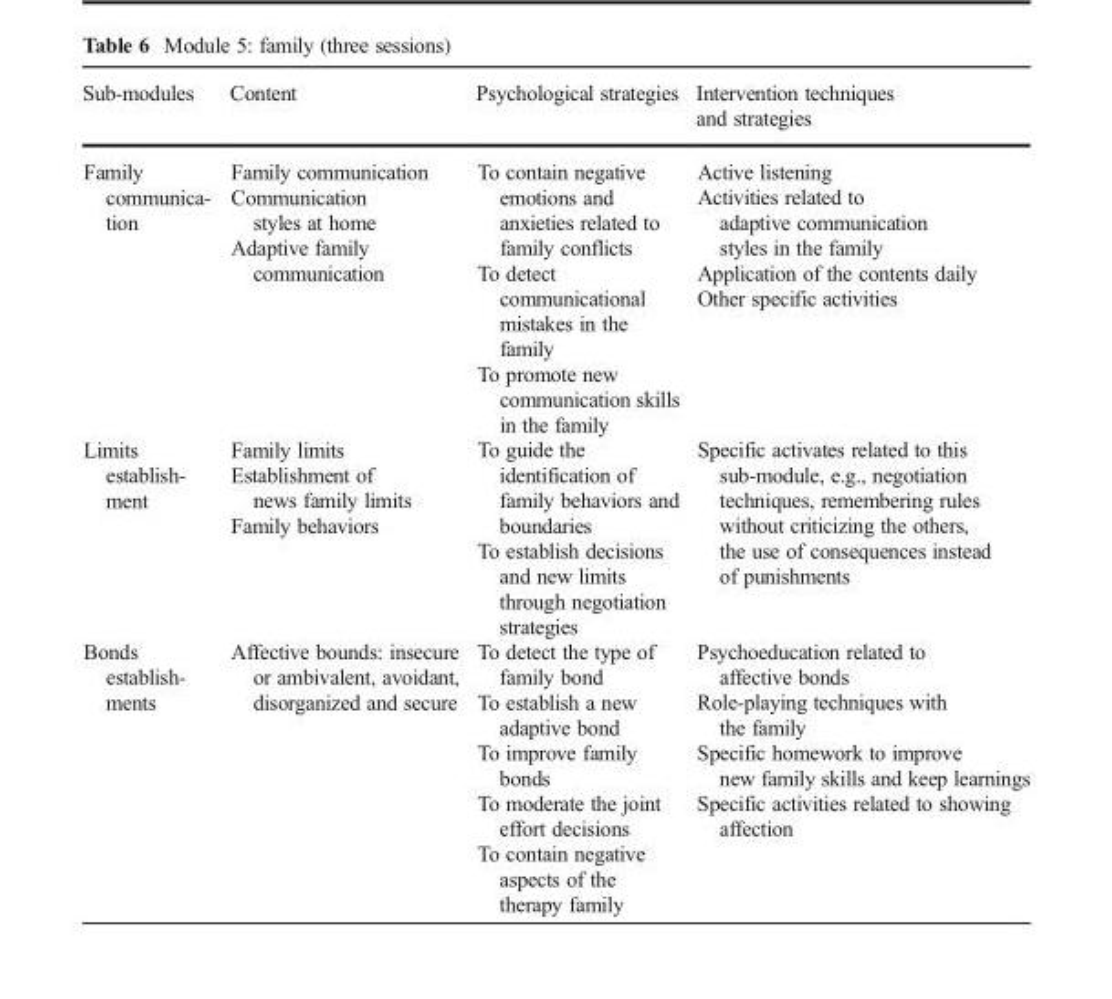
<table><thead><tr><td>Sub-modules</td><td>Content</td><td>Psychological strategies</td><td>Intervention techniques and strategies</td></tr></thead><tbody><tr><td>Family communica- tion</td><td>Family communication Communication styles at home Adaptive family communication</td><td>To contain negative emotions and anxieties related to family conflicts To detect communicational mistakes in the family To promote new communication skills in the family</td><td>Active listening Activities related to adaptive communication styles in the family Application of the contents daily Other specific activities</td></tr><tr><td>Limits establish- ment</td><td>Family limits Establishment of news family limits Family behaviors</td><td>To guide the identification of family behaviors and boundaries To establish decisions and new limits through negotiation strategies</td><td>Specific activates related to this sub-module, e.g., negotiation techniques, remembering rules without criticizing the others, the use of consequences instead of punishments</td></tr><tr><td>Bonds establish- ments</td><td>Affective bounds: insecure or ambivalent, avoidant, disorganized and secure</td><td>To detect the type of family bond To establish a new adaptive bond To improve family bonds To moderate the joint effort decisions To contain negative aspects of the therapy family</td><td>Psychoeducation related to affective bonds Role-playing techniques with the family Specific homework to improve new family skills and keep learnings Specific activities related to showing affection</td></tr></tbody></table>